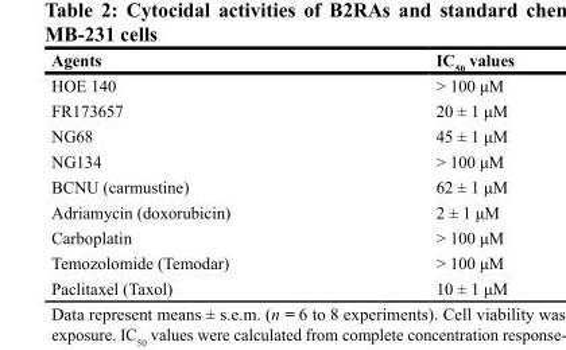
<table><thead><tr><td>Agents</td><td>IC<sub>50</sub> values</td></tr></thead><tbody><tr><td>HOE 140</td><td>&gt; 100 μM</td></tr><tr><td>FR173657</td><td>20 ± 1 μM</td></tr><tr><td>NG68</td><td>45 ± 1 μM</td></tr><tr><td>NG134</td><td>&gt; 100 μM</td></tr><tr><td>BCNU (carmustine)</td><td>62 ± 1 μM</td></tr><tr><td>Adriamycin (doxorubicin)</td><td>2 ± 1 μM</td></tr><tr><td>Carboplatin</td><td>&gt; 100 μM</td></tr><tr><td>Temozolomide (Temodar)</td><td>&gt; 100 μM</td></tr><tr><td>Paclitaxel (Taxol)</td><td>10 ± 1 μM</td></tr></tbody></table>